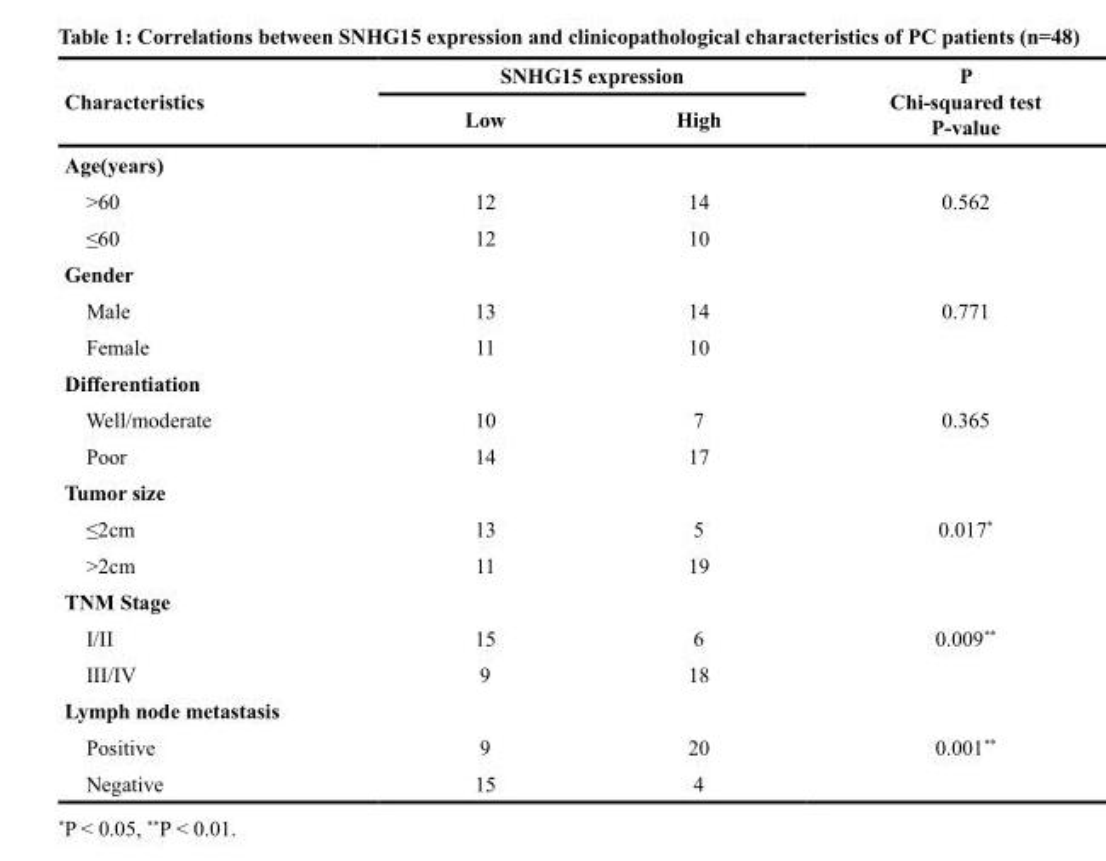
<table><thead><tr><td rowspan="2">Characteristics</td><td colspan="2">SNHG15 expression</td><td rowspan="2">P Chi-squared test P-value</td></tr><tr><td>Low</td><td>High</td></tr></thead><tbody><tr><td colspan="4">Age(years)</td></tr><tr><td>&gt;60</td><td>12</td><td>14</td><td>0.562</td></tr><tr><td>≤60</td><td>12</td><td>10</td><td></td></tr><tr><td colspan="4">Gender</td></tr><tr><td>Male</td><td>13</td><td>14</td><td>0.771</td></tr><tr><td>Female</td><td>11</td><td>10</td><td></td></tr><tr><td colspan="4">Differentiation</td></tr><tr><td>Well/moderate</td><td>10</td><td>7</td><td>0.365</td></tr><tr><td>Poor</td><td>14</td><td>17</td><td></td></tr><tr><td colspan="4">Tumor size</td></tr><tr><td>≤2cm</td><td>13</td><td>5</td><td>0.017*</td></tr><tr><td>&gt;2cm</td><td>11</td><td>19</td><td></td></tr><tr><td colspan="4">TNM Stage</td></tr><tr><td>I/II</td><td>15</td><td>6</td><td>0.009**</td></tr><tr><td>III/IV</td><td>9</td><td>18</td><td></td></tr><tr><td colspan="4">Lymph node metastasis</td></tr><tr><td>Positive</td><td>9</td><td>20</td><td>0.001**</td></tr><tr><td>Negative</td><td>15</td><td>4</td><td></td></tr></tbody></table>